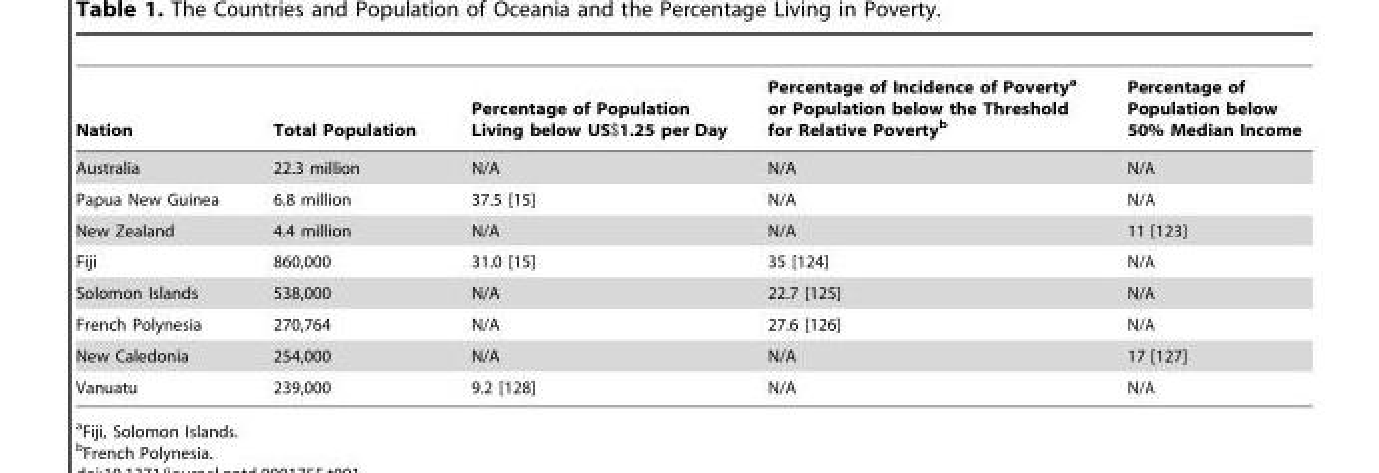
<table><thead><tr><td>Nation</td><td>Total Population</td><td>Percentage of Population Living below US$1.25 per Day</td><td>Percentage of Incidence of Poverty<sup>a</sup> or Population below the Threshold for Relative Poverty<sup>b</sup></td><td>Percentage of Population below 50% Median Income</td></tr></thead><tbody><tr><td>Australia</td><td>22.3 million</td><td>N/A</td><td>N/A</td><td>N/A</td></tr><tr><td>Papua New Guinea</td><td>6.8 million</td><td>37.5 [15]</td><td>N/A</td><td>N/A</td></tr><tr><td>New Zealand</td><td>4.4 million</td><td>N/A</td><td>N/A</td><td>11 [123]</td></tr><tr><td>Fiji</td><td>860,000</td><td>31.0 [15]</td><td>35 [124]</td><td>N/A</td></tr><tr><td>Solomon Islands</td><td>538,000</td><td>N/A</td><td>22.7 [125]</td><td>N/A</td></tr><tr><td>French Polynesia</td><td>270,764</td><td>N/A</td><td>27.6 [126]</td><td>N/A</td></tr><tr><td>New Caledonia</td><td>254,000</td><td>N/A</td><td>N/A</td><td>17 [127]</td></tr><tr><td>Vanuatu</td><td>239,000</td><td>9.2 [128]</td><td>N/A</td><td>N/A</td></tr></tbody></table>